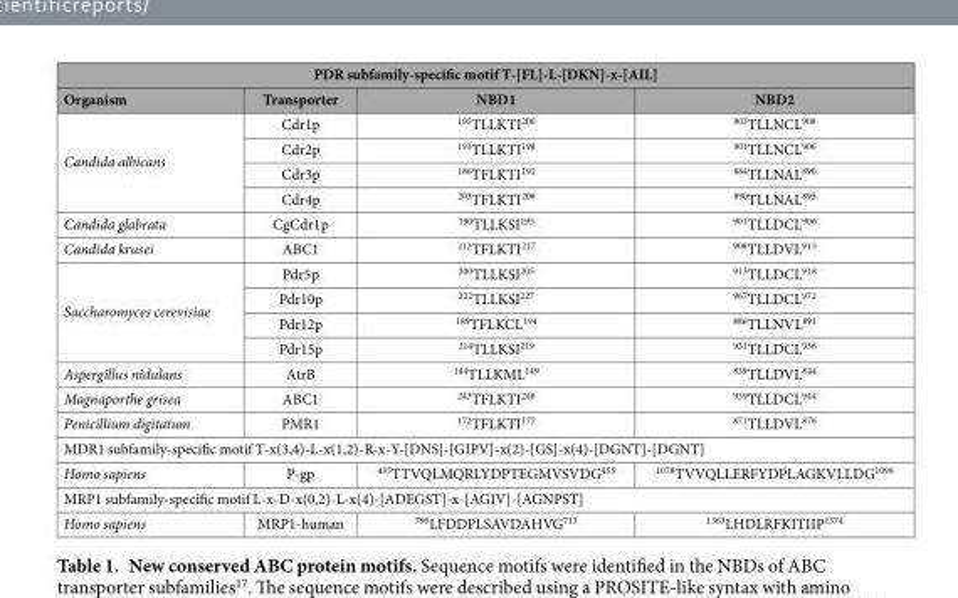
<table><thead><tr><td colspan="4">PDR subfamily-specific motif T-[FL]-L-[DKN]-x-[AIL]</td></tr><tr><td>Organism</td><td>Transporter</td><td>NBD1</td><td>NBD2</td></tr></thead><tbody><tr><td rowspan="4">Candida albicans</td><td>Cdr1p</td><td><sup>195</sup>TLLKTI<sup>200</sup></td><td><sup>903</sup>TLLNCL<sup>908</sup></td></tr><tr><td>Cdr2p</td><td><sup>193</sup>TLLKTI<sup>198</sup></td><td><sup>901</sup>TLLNCL<sup>906</sup></td></tr><tr><td>Cdr3p</td><td><sup>186</sup>TFLKTI<sup>191</sup></td><td><sup>884</sup>TLLNAL<sup>890</sup></td></tr><tr><td>Cdr4p</td><td><sup>203</sup>TFLKTI<sup>208</sup></td><td><sup>890</sup>TLLNAL<sup>895</sup></td></tr><tr><td>Candida glabrata</td><td>CgCdr1p</td><td><sup>190</sup>TLLKSI<sup>195</sup></td><td><sup>901</sup>TLLDCL<sup>906</sup></td></tr><tr><td>Candida krusei</td><td>ABC1</td><td><sup>212</sup>TFLKTI<sup>217</sup></td><td><sup>908</sup>TLLDVL<sup>913</sup></td></tr><tr><td rowspan="4">Saccharomyces cerevisiae</td><td>Pdr5p</td><td><sup>200</sup>TLLKSI<sup>205</sup></td><td><sup>913</sup>TLLDCL<sup>918</sup></td></tr><tr><td>Pdr10p</td><td><sup>222</sup>TLLKSI<sup>227</sup></td><td><sup>967</sup>TLLDCL<sup>972</sup></td></tr><tr><td>Pdr12p</td><td><sup>189</sup>TFLKCL<sup>194</sup></td><td><sup>886</sup>TLLNVL<sup>891</sup></td></tr><tr><td>Pdr15p</td><td><sup>214</sup>TLLKSI<sup>219</sup></td><td><sup>931</sup>TLLDCL<sup>936</sup></td></tr><tr><td>Aspergillus nidulans</td><td>AtrB</td><td><sup>144</sup>TLLKML<sup>149</sup></td><td><sup>839</sup>TLLDVL<sup>844</sup></td></tr><tr><td>Magnaporthe grisea</td><td>ABC1</td><td><sup>243</sup>TFLKTI<sup>248</sup></td><td><sup>939</sup>TLLDCL<sup>944</sup></td></tr><tr><td>Penicillium digitatum</td><td>PMR1</td><td><sup>172</sup>TFLKTI<sup>177</sup></td><td><sup>871</sup>TLLDVL<sup>876</sup></td></tr><tr><td colspan="4">MDR1 subfamily-specific motif T-x(3,4)-L-x(1,2)-R-x-Y-[DNS]-[GIPV]-x(2)-[GS]-x(4)-[DGNT]-[DGNT]</td></tr><tr><td>Homo sapiens</td><td>P-gp</td><td><sup>435</sup>TTVQLMQRLYDPTEGMVSVDG<sup>455</sup></td><td><sup>1078</sup>TVVQLLERFYDPLAGKVLLDG<sup>1098</sup></td></tr><tr><td colspan="4">MRP1 subfamily-specific motif L-x-D-x(0,2)-L-x(4)-[ADEGST]-x-[AGIV]-[AGNPST]</td></tr><tr><td>Homo sapiens</td><td>MRP1-human</td><td><sup>790</sup>LFDDPLSAVDAHVG<sup>713</sup></td><td><sup>1363</sup>LHDLRFKITIIP<sup>1374</sup></td></tr></tbody></table>